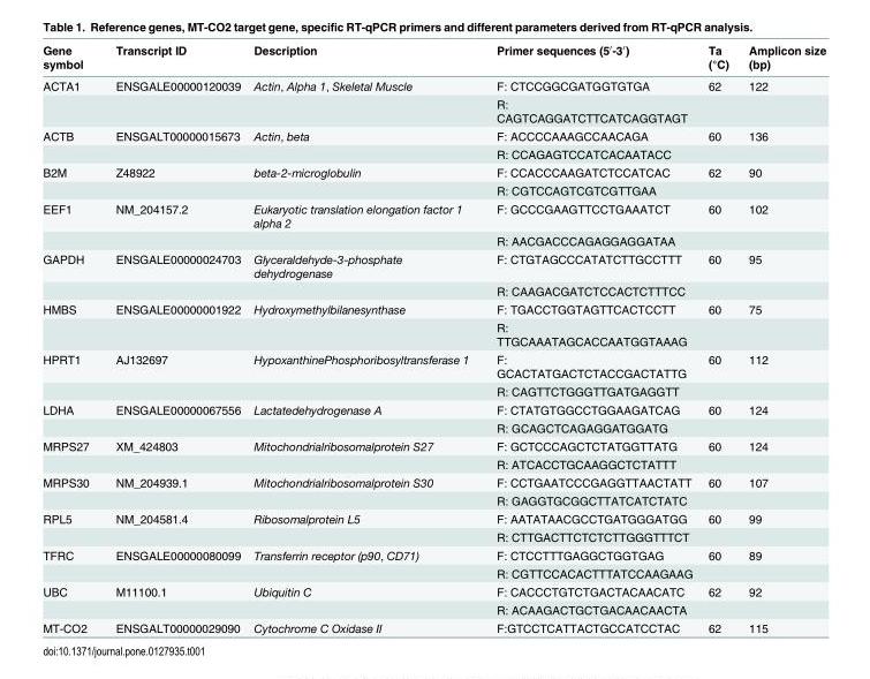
<table><thead><tr><td>Gene symbol</td><td>Transcript ID</td><td>Description</td><td>Primer sequences (5′-3′)</td><td>Ta (°C)</td><td>Amplicon size (bp)</td></tr></thead><tbody><tr><td rowspan="2">ACTA1</td><td>ENSGALE00000120039</td><td>Actin, Alpha 1, Skeletal Muscle</td><td>F: CTCCGGCGATGGTGTGA</td><td>62</td><td>122</td></tr><tr><td></td><td></td><td>R: CAGTCAGGATCTTCATCAGGTAGT</td><td></td><td></td></tr><tr><td rowspan="2">ACTB</td><td>ENSGALT00000015673</td><td>Actin, beta</td><td>F: ACCCCAAAGCCAACAGA</td><td>60</td><td>136</td></tr><tr><td></td><td></td><td>R: CCAGAGTCCATCACAATACC</td><td></td><td></td></tr><tr><td rowspan="2">B2M</td><td>Z48922</td><td>beta-2-microglobulin</td><td>F: CCACCCAAGATCTCCATCAC</td><td>62</td><td>90</td></tr><tr><td></td><td></td><td>R: CGTCCAGTCGTCGTTGAA</td><td></td><td></td></tr><tr><td rowspan="2">EEF1</td><td>NM_204157.2</td><td>Eukaryotic translation elongation factor 1 alpha 2</td><td>F: GCCCGAAGTTCCTGAAATCT</td><td>60</td><td>102</td></tr><tr><td></td><td></td><td>R: AACGACCCAGAGGAGGATAA</td><td></td><td></td></tr><tr><td rowspan="2">GAPDH</td><td>ENSGALE00000024703</td><td>Glyceraldehyde-3-phosphate dehydrogenase</td><td>F: CTGTAGCCCATATCTTGCCTTT</td><td>60</td><td>95</td></tr><tr><td></td><td></td><td>R: CAAGACGATCTCCACTCTTTCC</td><td></td><td></td></tr><tr><td rowspan="2">HMBS</td><td>ENSGALE00000001922</td><td>Hydroxymethylbilanesynthase</td><td>F: TGACCTGGTAGTTCACTCCTT</td><td>60</td><td>75</td></tr><tr><td></td><td></td><td>R: TTGCAAATAGCACCAATGGTAAAG</td><td></td><td></td></tr><tr><td rowspan="2">HPRT1</td><td>AJ132697</td><td>HypoxanthinePhosphoribosyltransferase 1</td><td>F: GCACTATGACTCTACCGACTATTG</td><td>60</td><td>112</td></tr><tr><td></td><td></td><td>R: CAGTTCTGGGTTGATGAGGTT</td><td></td><td></td></tr><tr><td rowspan="2">LDHA</td><td>ENSGALE00000067556</td><td>Lactatedehydrogenase A</td><td>F: CTATGTGGCCTGGAAGATCAG</td><td>60</td><td>124</td></tr><tr><td></td><td></td><td>R: GCAGCTCAGAGGATGGATG</td><td></td><td></td></tr><tr><td rowspan="2">MRPS27</td><td>XM_424803</td><td>Mitochondrialribosomalprotein S27</td><td>F: GCTCCCAGCTCTATGGTTATG</td><td>60</td><td>124</td></tr><tr><td></td><td></td><td>R: ATCACCTGCAAGGCTCTATTT</td><td></td><td></td></tr><tr><td rowspan="2">MRPS30</td><td>NM_204939.1</td><td>Mitochondrialribosomalprotein S30</td><td>F: CCTGAATCCCGAGGTTAACTATT</td><td>60</td><td>107</td></tr><tr><td></td><td></td><td>R: GAGGTGCGGCTTATCATCTATC</td><td></td><td></td></tr><tr><td rowspan="2">RPL5</td><td>NM_204581.4</td><td>Ribosomalprotein L5</td><td>F: AATATAACGCCTGATGGGATGG</td><td>60</td><td>99</td></tr><tr><td></td><td></td><td>R: CTTGACTTCTCTCTTGGGTTTCT</td><td></td><td></td></tr><tr><td rowspan="2">TFRC</td><td>ENSGALE00000080099</td><td>Transferrin receptor (p90, CD71)</td><td>F: CTCCTTTGAGGCTGGTGAG</td><td>60</td><td>89</td></tr><tr><td></td><td></td><td>R: CGTTCCACACTTTATCCAAGAAG</td><td></td><td></td></tr><tr><td rowspan="2">UBC</td><td>M11100.1</td><td>Ubiquitin C</td><td>F: CACCCTGTCTGACTACAACATC</td><td>62</td><td>92</td></tr><tr><td></td><td></td><td>R: ACAAGACTGCTGACAACAACTA</td><td></td><td></td></tr><tr><td>MT-CO2</td><td>ENSGALT00000029090</td><td>Cytochrome C Oxidase II</td><td>F:GTCCTCATTACTGCCATCCTAC</td><td>62</td><td>115</td></tr></tbody></table>